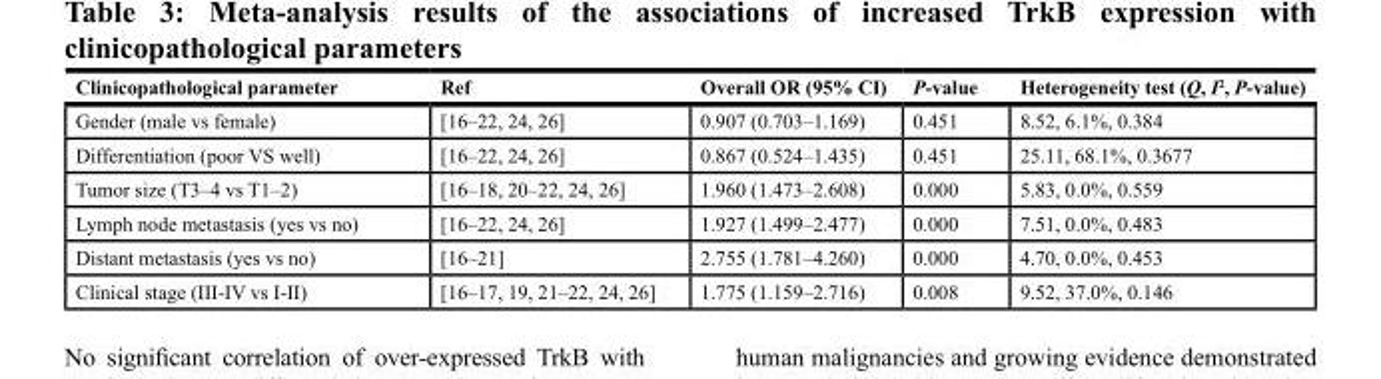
<table><thead><tr><td>Clinicopathological parameter</td><td>Ref</td><td>Overall OR (95% CI)</td><td>P-value</td><td>Heterogeneity test (Q, I<sup>2</sup>, P-value)</td></tr></thead><tbody><tr><td>Gender (male vs female)</td><td>[16–22, 24, 26]</td><td>0.907 (0.703–1.169)</td><td>0.451</td><td>8.52, 6.1%, 0.384</td></tr><tr><td>Differentiation (poor VS well)</td><td>[16–22, 24, 26]</td><td>0.867 (0.524–1.435)</td><td>0.451</td><td>25.11, 68.1%, 0.3677</td></tr><tr><td>Tumor size (T3–4 vs T1–2)</td><td>[16–18, 20–22, 24, 26]</td><td>1.960 (1.473–2.608)</td><td>0.000</td><td>5.83, 0.0%, 0.559</td></tr><tr><td>Lymph node metastasis (yes vs no)</td><td>[16–22, 24, 26]</td><td>1.927 (1.499–2.477)</td><td>0.000</td><td>7.51, 0.0%, 0.483</td></tr><tr><td>Distant metastasis (yes vs no)</td><td>[16–21]</td><td>2.755 (1.781–4.260)</td><td>0.000</td><td>4.70, 0.0%, 0.453</td></tr><tr><td>Clinical stage (III-IV vs I-II)</td><td>[16–17, 19, 21–22, 24, 26]</td><td>1.775 (1.159–2.716)</td><td>0.008</td><td>9.52, 37.0%, 0.146</td></tr></tbody></table>